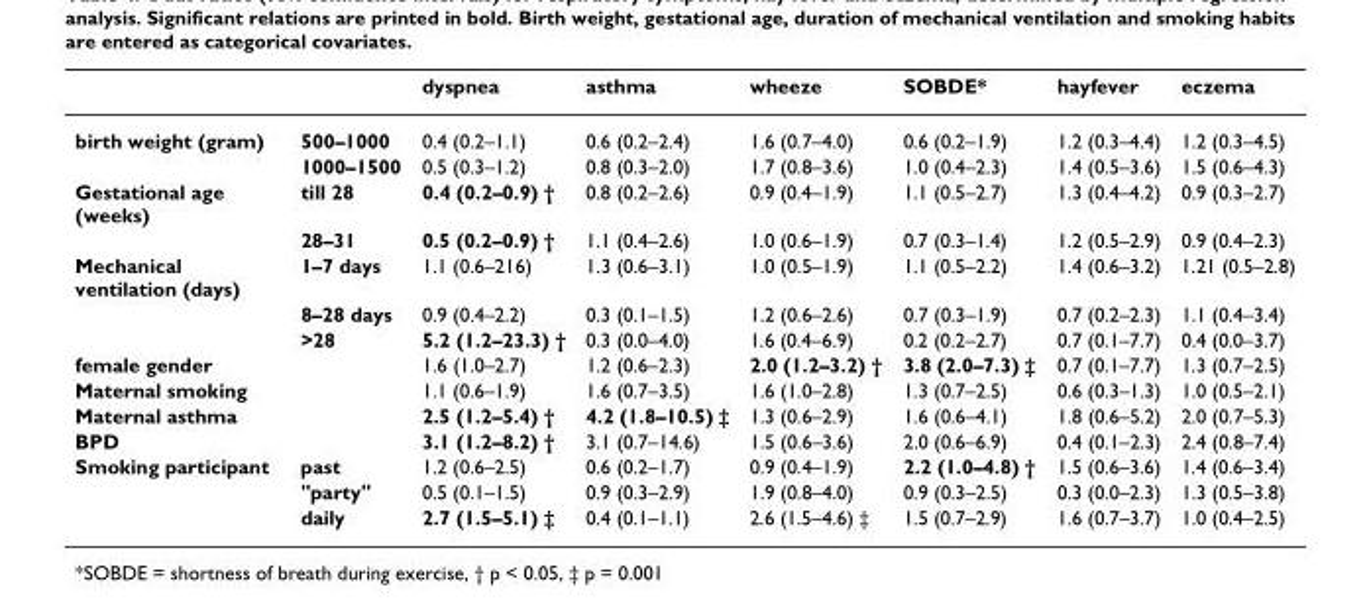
<table><thead><tr><td></td><td></td><td>dyspnea</td><td>asthma</td><td>wheeze</td><td>SOBDE*</td><td>hayfever</td><td>eczema</td></tr></thead><tbody><tr><td rowspan="2">birth weight (gram)</td><td>500–1000</td><td>0.4 (0.2–1.1)</td><td>0.6 (0.2–2.4)</td><td>1.6 (0.7–4.0)</td><td>0.6 (0.2–1.9)</td><td>1.2 (0.3–4.4)</td><td>1.2 (0.3–4.5)</td></tr><tr><td>1000–1500</td><td>0.5 (0.3–1.2)</td><td>0.8 (0.3–2.0)</td><td>1.7 (0.8–3.6)</td><td>1.0 (0.4–2.3)</td><td>1.4 (0.5–3.6)</td><td>1.5 (0.6–4.3)</td></tr><tr><td rowspan="2">Gestational age (weeks)</td><td>till 28</td><td>0.4 (0.2–0.9) †</td><td>0.8 (0.2–2.6)</td><td>0.9 (0.4–1.9)</td><td>1.1 (0.5–2.7)</td><td>1.3 (0.4–4.2)</td><td>0.9 (0.3–2.7)</td></tr><tr><td>28–31</td><td>0.5 (0.2–0.9) †</td><td>1.1 (0.4–2.6)</td><td>1.0 (0.6–1.9)</td><td>0.7 (0.3–1.4)</td><td>1.2 (0.5–2.9)</td><td>0.9 (0.4–2.3)</td></tr><tr><td rowspan="3">Mechanical ventilation (days)</td><td>1–7 days</td><td>1.1 (0.6–216)</td><td>1.3 (0.6–3.1)</td><td>1.0 (0.5–1.9)</td><td>1.1 (0.5–2.2)</td><td>1.4 (0.6–3.2)</td><td>1.21 (0.5–2.8)</td></tr><tr><td>8–28 days</td><td>0.9 (0.4–2.2)</td><td>0.3 (0.1–1.5)</td><td>1.2 (0.6–2.6)</td><td>0.7 (0.3–1.9)</td><td>0.7 (0.2–2.3)</td><td>1.1 (0.4–3.4)</td></tr><tr><td>&gt;28</td><td>5.2 (1.2–23.3) †</td><td>0.3 (0.0–4.0)</td><td>1.6 (0.4–6.9)</td><td>0.2 (0.2–2.7)</td><td>0.7 (0.1–7.7)</td><td>0.4 (0.0–3.7)</td></tr><tr><td>female gender</td><td></td><td>1.6 (1.0–2.7)</td><td>1.2 (0.6–2.3)</td><td>2.0 (1.2–3.2) †</td><td>3.8 (2.0–7.3) ‡</td><td>0.7 (0.1–7.7)</td><td>1.3 (0.7–2.5)</td></tr><tr><td>Maternal smoking</td><td></td><td>1.1 (0.6–1.9)</td><td>1.6 (0.7–3.5)</td><td>1.6 (1.0–2.8)</td><td>1.3 (0.7–2.5)</td><td>0.6 (0.3–1.3)</td><td>1.0 (0.5–2.1)</td></tr><tr><td>Maternal asthma</td><td></td><td>2.5 (1.2–5.4) †</td><td>4.2 (1.8–10.5) ‡</td><td>1.3 (0.6–2.9)</td><td>1.6 (0.6–4.1)</td><td>1.8 (0.6–5.2)</td><td>2.0 (0.7–5.3)</td></tr><tr><td>BPD</td><td></td><td>3.1 (1.2–8.2) †</td><td>3.1 (0.7–14.6)</td><td>1.5 (0.6–3.6)</td><td>2.0 (0.6–6.9)</td><td>0.4 (0.1–2.3)</td><td>2.4 (0.8–7.4)</td></tr><tr><td rowspan="3">Smoking participant</td><td>past</td><td>1.2 (0.6–2.5)</td><td>0.6 (0.2–1.7)</td><td>0.9 (0.4–1.9)</td><td>2.2 (1.0–4.8) †</td><td>1.5 (0.6–3.6)</td><td>1.4 (0.6–3.4)</td></tr><tr><td>&quot;party&quot;</td><td>0.5 (0.1–1.5)</td><td>0.9 (0.3–2.9)</td><td>1.9 (0.8–4.0)</td><td>0.9 (0.3–2.5)</td><td>0.3 (0.0–2.3)</td><td>1.3 (0.5–3.8)</td></tr><tr><td>daily</td><td>2.7 (1.5–5.1) ‡</td><td>0.4 (0.1–1.1)</td><td>2.6 (1.5–4.6) ‡</td><td>1.5 (0.7–2.9)</td><td>1.6 (0.7–3.7)</td><td>1.0 (0.4–2.5)</td></tr></tbody></table>